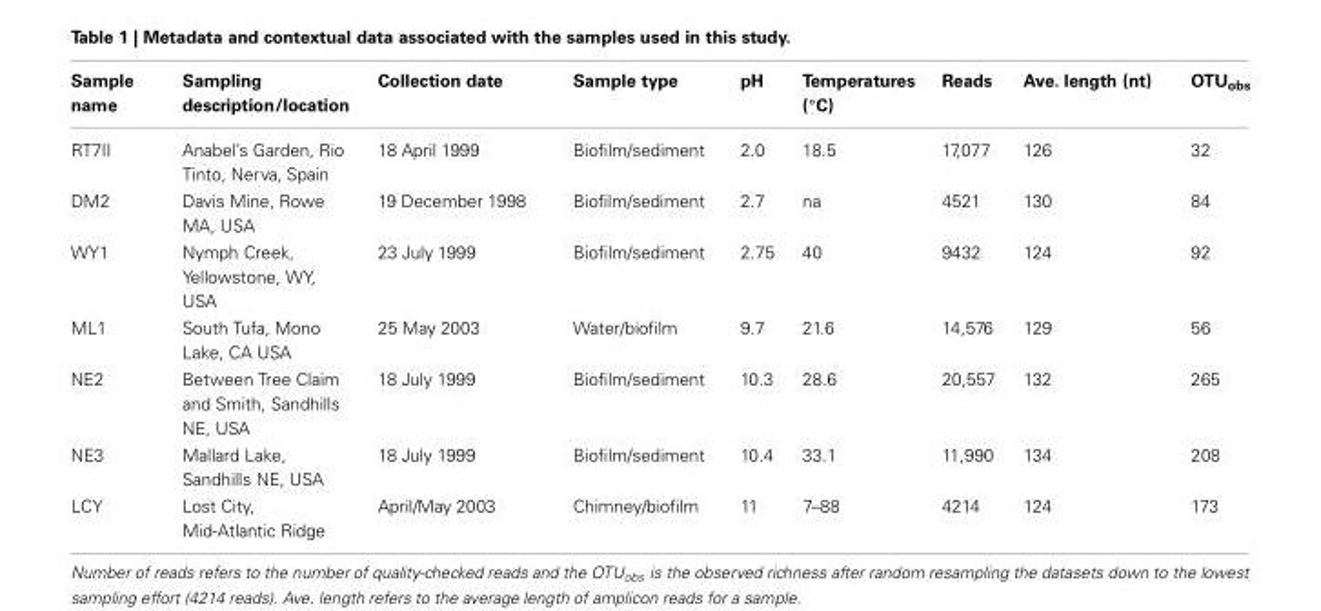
<table><thead><tr><td>Sample name</td><td>Sampling description/location</td><td>Collection date</td><td>Sample type</td><td>pH</td><td>Temperatures (◦C)</td><td>Reads</td><td>Ave. length (nt)</td><td>OTU<sub>obs</sub></td></tr></thead><tbody><tr><td>RT7II</td><td>Anabel’s Garden, Rio Tinto, Nerva, Spain</td><td>18 April 1999</td><td>Biofilm/sediment</td><td>2.0</td><td>18.5</td><td>17,077</td><td>126</td><td>32</td></tr><tr><td>DM2</td><td>Davis Mine, Rowe MA, USA</td><td>19 December 1998</td><td>Biofilm/sediment</td><td>2.7</td><td>na</td><td>4521</td><td>130</td><td>84</td></tr><tr><td>WY1</td><td>Nymph Creek, Yellowstone, WY, USA</td><td>23 July 1999</td><td>Biofilm/sediment</td><td>2.75</td><td>40</td><td>9432</td><td>124</td><td>92</td></tr><tr><td>ML1</td><td>South Tufa, Mono Lake, CA USA</td><td>25 May 2003</td><td>Water/biofilm</td><td>9.7</td><td>21.6</td><td>14,576</td><td>129</td><td>56</td></tr><tr><td>NE2</td><td>Between Tree Claim and Smith, Sandhills NE, USA</td><td>18 July 1999</td><td>Biofilm/sediment</td><td>10.3</td><td>28.6</td><td>20,557</td><td>132</td><td>265</td></tr><tr><td>NE3</td><td>Mallard Lake, Sandhills NE, USA</td><td>18 July 1999</td><td>Biofilm/sediment</td><td>10.4</td><td>33.1</td><td>11,990</td><td>134</td><td>208</td></tr><tr><td>LCY</td><td>Lost City, Mid-Atlantic Ridge</td><td>April/May 2003</td><td>Chimney/biofilm</td><td>11</td><td>7–88</td><td>4214</td><td>124</td><td>173</td></tr></tbody></table>